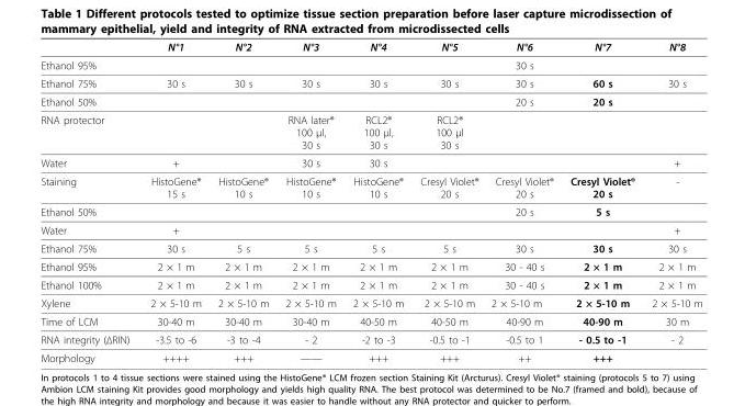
<table><thead><tr><td></td><td>N°1</td><td>N°2</td><td>N°3</td><td>N°4</td><td>N°5</td><td>N°6</td><td>N°7</td><td>N°8</td></tr></thead><tbody><tr><td>Ethanol 95%</td><td></td><td></td><td></td><td></td><td></td><td>30 s</td><td></td><td></td></tr><tr><td>Ethanol 75%</td><td>30 s</td><td>30 s</td><td>30 s</td><td>30 s</td><td>30 s</td><td>30 s</td><td>60 s</td><td>30 s</td></tr><tr><td>Ethanol 50%</td><td></td><td></td><td></td><td></td><td></td><td>20 s</td><td>20 s</td><td></td></tr><tr><td>RNA protector</td><td></td><td></td><td>RNA later<sup>®</sup> 100 μl, 30 s</td><td>RCL2<sup>®</sup> 100 μl, 30 s</td><td>RCL2<sup>®</sup> 100 μl 30 s</td><td></td><td></td><td></td></tr><tr><td>Water</td><td>+</td><td></td><td>30 s</td><td>30 s</td><td></td><td></td><td></td><td>+</td></tr><tr><td>Staining</td><td>HistoGene<sup>®</sup> 15 s</td><td>HistoGene<sup>®</sup> 10 s</td><td>HistoGene<sup>®</sup> 10 s</td><td>HistoGene<sup>®</sup> 10 s</td><td>Cresyl Violet<sup>®</sup> 20 s</td><td>Cresyl Violet<sup>®</sup> 20 s</td><td>Cresyl Violet<sup>®</sup> 20 s</td><td>-</td></tr><tr><td>Ethanol 50%</td><td></td><td></td><td></td><td></td><td></td><td>20 s</td><td>5 s</td><td></td></tr><tr><td>Water</td><td>+</td><td></td><td></td><td></td><td></td><td></td><td></td><td>+</td></tr><tr><td>Ethanol 75%</td><td>30 s</td><td>5 s</td><td>5 s</td><td>5 s</td><td>5 s</td><td>30 s</td><td>30 s</td><td>30 s</td></tr><tr><td>Ethanol 95%</td><td>2 × 1 m</td><td>2 × 1 m</td><td>2 × 1 m</td><td>2 × 1 m</td><td>2 × 1 m</td><td>30 - 40 s</td><td>2 × 1 m</td><td>2 × 1 m</td></tr><tr><td>Ethanol 100%</td><td>2 × 1 m</td><td>2 × 1 m</td><td>2 × 1 m</td><td>2 × 1 m</td><td>2 × 1 m</td><td>30 - 40 s</td><td>2 × 1 m</td><td>2 × 1 m</td></tr><tr><td>Xylene</td><td>2 × 5-10 m</td><td>2 × 5-10 m</td><td>2 × 5-10 m</td><td>2 × 5-10 m</td><td>2 × 5-10 m</td><td>2 × 5-10 m</td><td>2 × 5-10 m</td><td>2 × 5-10 m</td></tr><tr><td>Time of LCM</td><td>30-40 m</td><td>30-40 m</td><td>30-40 m</td><td>40-50 m</td><td>40-50 m</td><td>40-90 m</td><td>40-90 m</td><td>30 m</td></tr><tr><td>RNA integrity (ΔRIN)</td><td>-3.5 to -6</td><td>-3 to -4</td><td>- 2</td><td>-2 to -3</td><td>-0.5 to -1</td><td>-0.5 to 1</td><td>- 0.5 to -1</td><td>- 2</td></tr><tr><td>Morphology</td><td>++++</td><td>+++</td><td>——</td><td>+++</td><td>+++</td><td>++</td><td>+++</td><td></td></tr></tbody></table>